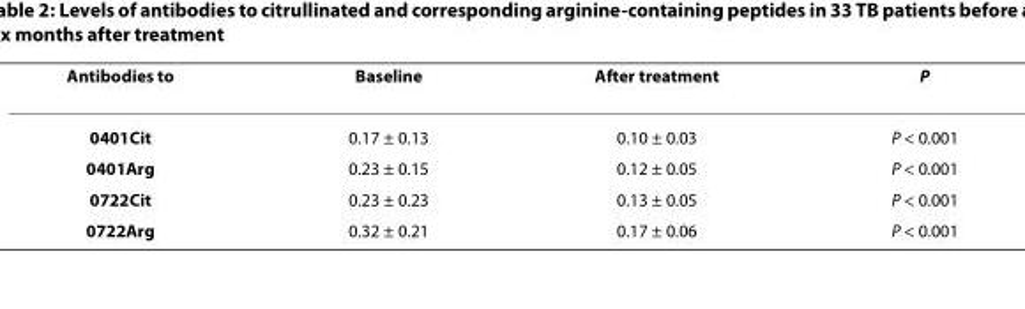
<table><thead><tr><td>Antibodies to</td><td>Baseline</td><td>After treatment</td><td>P</td></tr></thead><tbody><tr><td>0401Cit</td><td>0.17 ± 0.13</td><td>0.10 ± 0.03</td><td>P &lt; 0.001</td></tr><tr><td>0401Arg</td><td>0.23 ± 0.15</td><td>0.12 ± 0.05</td><td>P &lt; 0.001</td></tr><tr><td>0722Cit</td><td>0.23 ± 0.23</td><td>0.13 ± 0.05</td><td>P &lt; 0.001</td></tr><tr><td>0722Arg</td><td>0.32 ± 0.21</td><td>0.17 ± 0.06</td><td>P &lt; 0.001</td></tr></tbody></table>